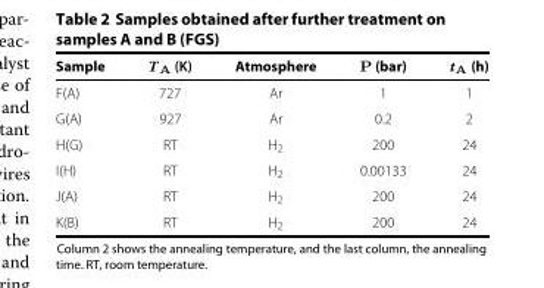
<table><thead><tr><td>Sample</td><td>T<sub>A</sub> (K)</td><td>Atmosphere</td><td>P (bar)</td><td>t<sub>A</sub> (h)</td></tr></thead><tbody><tr><td>F(A)</td><td>727</td><td>Ar</td><td>1</td><td>1</td></tr><tr><td>G(A)</td><td>927</td><td>Ar</td><td>0.2</td><td>2</td></tr><tr><td>H(G)</td><td>RT</td><td>H<sub>2</sub></td><td>200</td><td>24</td></tr><tr><td>I(H)</td><td>RT</td><td>H<sub>2</sub></td><td>0.00133</td><td>24</td></tr><tr><td>J(A)</td><td>RT</td><td>H<sub>2</sub></td><td>200</td><td>24</td></tr><tr><td>K(B)</td><td>RT</td><td>H<sub>2</sub></td><td>200</td><td>24</td></tr></tbody></table>